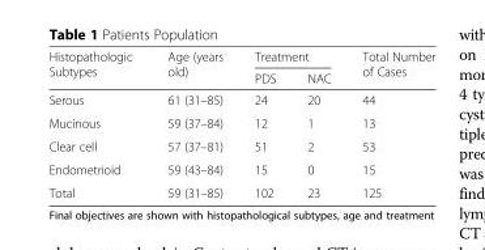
<table><thead><tr><td rowspan="2">Histopathologic Subtypes</td><td rowspan="2">Age (years old)</td><td colspan="2">Treatment</td><td rowspan="2">Total Number of Cases</td></tr><tr><td>PDS</td><td>NAC</td></tr></thead><tbody><tr><td>Serous</td><td>61 (31–85)</td><td>24</td><td>20</td><td>44</td></tr><tr><td>Mucinous</td><td>59 (37–84)</td><td>12</td><td>1</td><td>13</td></tr><tr><td>Clear cell</td><td>57 (37–81)</td><td>51</td><td>2</td><td>53</td></tr><tr><td>Endometrioid</td><td>59 (43–84)</td><td>15</td><td>0</td><td>15</td></tr><tr><td>Total</td><td>59 (31–85)</td><td>102</td><td>23</td><td>125</td></tr></tbody></table>